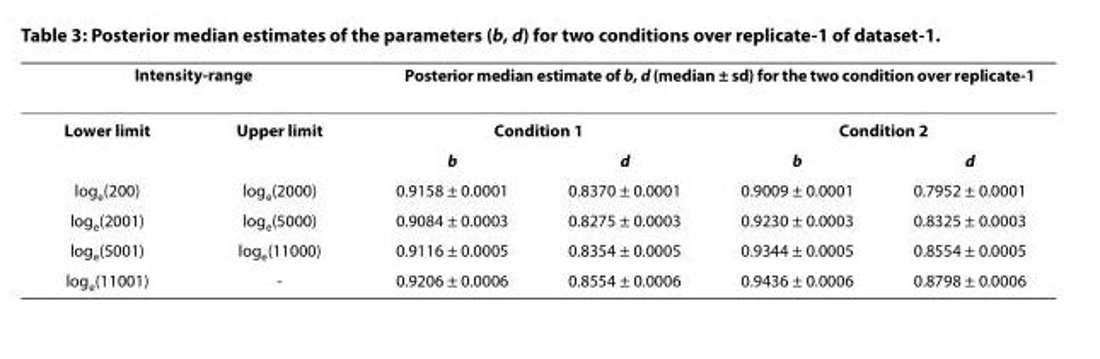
<table><thead><tr><td colspan="2">Intensity-range</td><td colspan="4">Posterior median estimate of b, d (median ± sd) for the two condition over replicate-1</td></tr><tr><td rowspan="2">Lower limit</td><td rowspan="2">Upper limit</td><td colspan="2">Condition 1</td><td colspan="2">Condition 2</td></tr><tr><td>b</td><td>d</td><td>b</td><td>d</td></tr></thead><tbody><tr><td>log<sub>e</sub>(200)</td><td>log<sub>e</sub>(2000)</td><td>0.9158 ± 0.0001</td><td>0.8370 ± 0.0001</td><td>0.9009 ± 0.0001</td><td>0.7952 ± 0.0001</td></tr><tr><td>log<sub>e</sub>(2001)</td><td>log<sub>e</sub>(5000)</td><td>0.9084 ± 0.0003</td><td>0.8275 ± 0.0003</td><td>0.9230 ± 0.0003</td><td>0.8325 ± 0.0003</td></tr><tr><td>log<sub>e</sub>(5001)</td><td>log<sub>e</sub>(11000)</td><td>0.9116 ± 0.0005</td><td>0.8354 ± 0.0005</td><td>0.9344 ± 0.0005</td><td>0.8554 ± 0.0005</td></tr><tr><td>log<sub>e</sub>(11001)</td><td>-</td><td>0.9206 ± 0.0006</td><td>0.8554 ± 0.0006</td><td>0.9436 ± 0.0006</td><td>0.8798 ± 0.0006</td></tr></tbody></table>